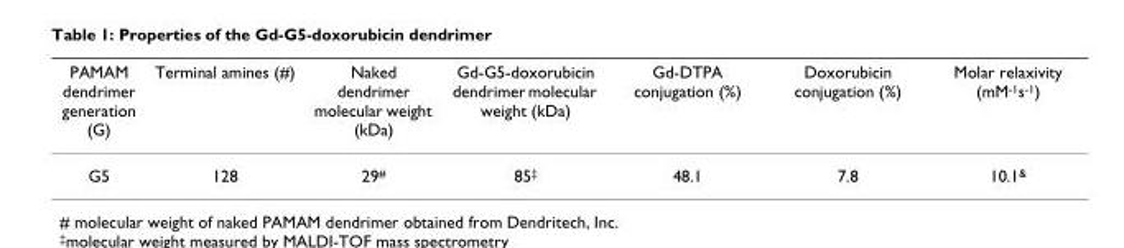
<table><thead><tr><td>PAMAM dendrimer generation (G)</td><td>Terminal amines (#)</td><td>Naked dendrimer molecular weight (kDa)</td><td>Gd-G5-doxorubicin dendrimer molecular weight (kDa)</td><td>Gd-DTPA conjugation (%)</td><td>Doxorubicin conjugation (%)</td><td>Molar relaxivity (mM<sup>-1</sup>s<sup>-1</sup>)</td></tr></thead><tbody><tr><td>G5</td><td>128</td><td>29<sup>#</sup></td><td>85<sup>‡</sup></td><td>48.1</td><td>7.8</td><td>10.1<sup>&amp;</sup></td></tr></tbody></table>